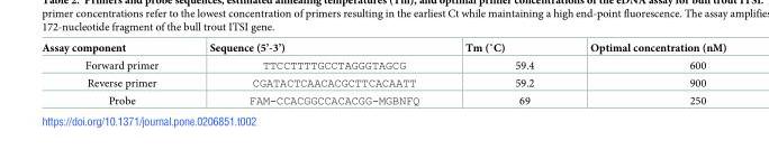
<table><thead><tr><td>Assay component</td><td>Sequence (5’-3’)</td><td>Tm (˚C)</td><td>Optimal concentration (nM)</td></tr></thead><tbody><tr><td>Forward primer</td><td>TTCCTTTTGCCTAGGGTAGCG</td><td>59.4</td><td>600</td></tr><tr><td>Reverse primer</td><td>CGATACTCAACACGCTTCACAATT</td><td>59.2</td><td>900</td></tr><tr><td>Probe</td><td>FAM-CCACGGCCACACGG-MGBNFQ</td><td>69</td><td>250</td></tr></tbody></table>